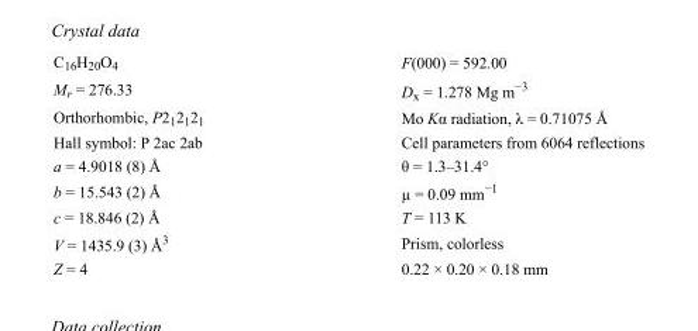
<table><tbody><tr><td>C<sub>16</sub>H<sub>20</sub>O<sub>4</sub></td><td>F(000) = 592.00</td></tr><tr><td>M<sub>r</sub> = 276.33</td><td>D<sub>x</sub> = 1.278 Mg m<sup>−3</sup></td></tr><tr><td>Orthorhombic, P2<sub>1</sub>2<sub>1</sub>2<sub>1</sub></td><td>Mo Kα radiation, λ = 0.71075 Å</td></tr><tr><td>Hall symbol: P 2ac 2ab</td><td>Cell parameters from 6064 reflections</td></tr><tr><td>a = 4.9018 (8) Å</td><td>θ = 1.3–31.4°</td></tr><tr><td>b = 15.543 (2) Å</td><td>µ = 0.09 mm<sup>−1</sup></td></tr><tr><td>c = 18.846 (2) Å</td><td>T = 113 K</td></tr><tr><td>V = 1435.9 (3) Å<sup>3</sup></td><td>Prism, colorless</td></tr><tr><td>Z = 4</td><td>0.22 × 0.20 × 0.18 mm</td></tr></tbody></table>